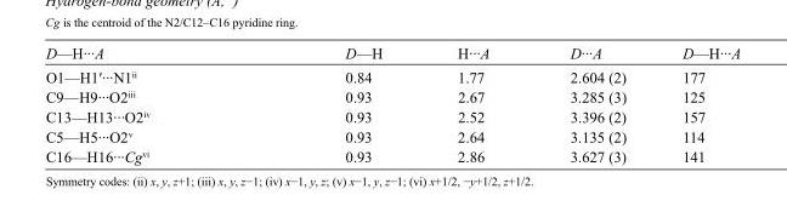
<table><tbody><tr><td>D—H···A</td><td>D—H</td><td>H···A</td><td>D···A</td><td>D—H···A</td></tr><tr><td>O1—H1′···N1<sup>ii</sup></td><td>0.84</td><td>1.77</td><td>2.604 (2)</td><td>177</td></tr><tr><td>C9—H9···O2<sup>iii</sup></td><td>0.93</td><td>2.67</td><td>3.285 (3)</td><td>125</td></tr><tr><td>C13—H13···O2<sup>iv</sup></td><td>0.93</td><td>2.52</td><td>3.396 (2)</td><td>157</td></tr><tr><td>C5—H5···O2<sup>v</sup></td><td>0.93</td><td>2.64</td><td>3.135 (2)</td><td>114</td></tr><tr><td>C16—H16···Cg<sup>vi</sup></td><td>0.93</td><td>2.86</td><td>3.627 (3)</td><td>141</td></tr></tbody></table>